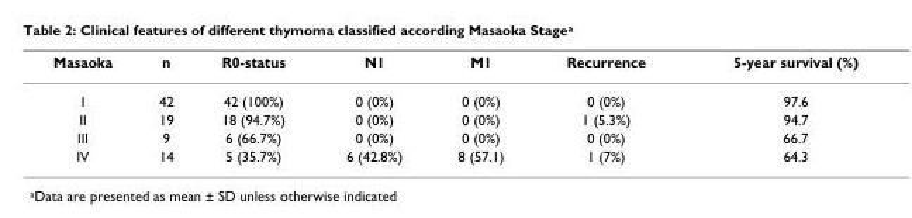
<table><thead><tr><td>Masaoka</td><td>n</td><td>R0-status</td><td>N1</td><td>M1</td><td>Recurrence</td><td>5-year survival (%)</td></tr></thead><tbody><tr><td>I</td><td>42</td><td>42 (100%)</td><td>0 (0%)</td><td>0 (0%)</td><td>0 (0%)</td><td>97.6</td></tr><tr><td>II</td><td>19</td><td>18 (94.7%)</td><td>0 (0%)</td><td>0 (0%)</td><td>1 (5.3%)</td><td>94.7</td></tr><tr><td>III</td><td>9</td><td>6 (66.7%)</td><td>0 (0%)</td><td>0 (0%)</td><td>0 (0%)</td><td>66.7</td></tr><tr><td>IV</td><td>14</td><td>5 (35.7%)</td><td>6 (42.8%)</td><td>8 (57.1)</td><td>1 (7%)</td><td>64.3</td></tr></tbody></table>